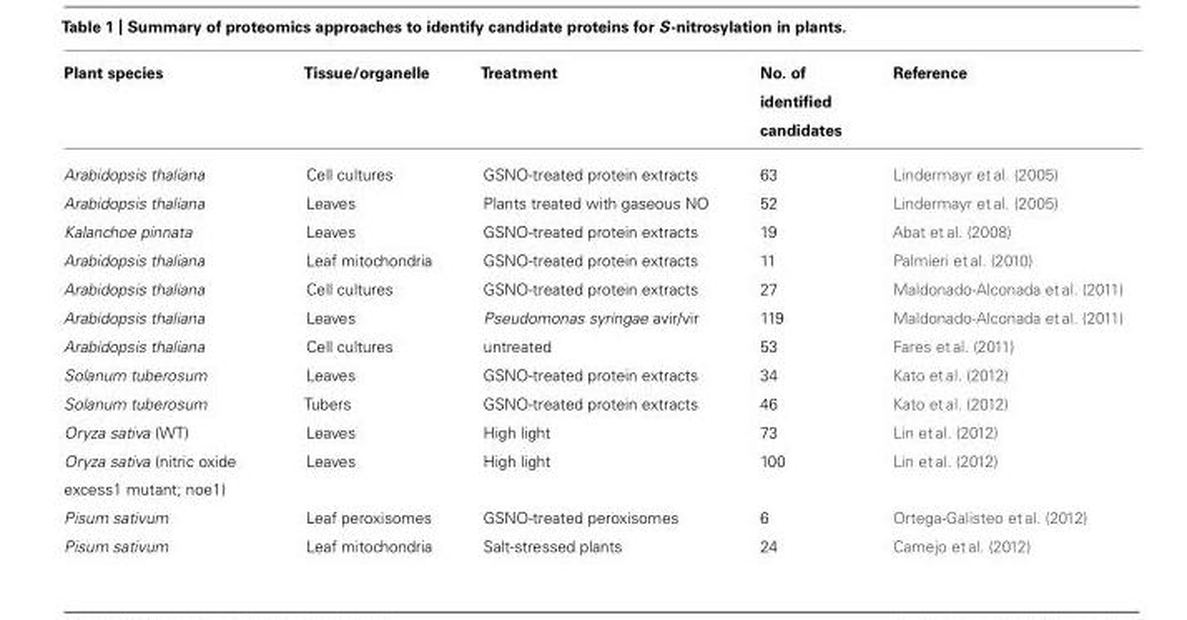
<table><thead><tr><td>Plant species</td><td>Tissue/organelle</td><td>Treatment</td><td>No. of identified candidates</td><td>Reference</td></tr></thead><tbody><tr><td>Arabidopsis thaliana</td><td>Cell cultures</td><td>GSNO-treated protein extracts</td><td>63</td><td>Lindermayr et al. (2005)</td></tr><tr><td>Arabidopsis thaliana</td><td>Leaves</td><td>Plants treated with gaseous NO</td><td>52</td><td>Lindermayr et al. (2005)</td></tr><tr><td>Kalanchoe pinnata</td><td>Leaves</td><td>GSNO-treated protein extracts</td><td>19</td><td>Abat et al. (2008)</td></tr><tr><td>Arabidopsis thaliana</td><td>Leaf mitochondria</td><td>GSNO-treated protein extracts</td><td>11</td><td>Palmieri et al. (2010)</td></tr><tr><td>Arabidopsis thaliana</td><td>Cell cultures</td><td>GSNO-treated protein extracts</td><td>27</td><td>Maldonado-Alconada et al. (2011)</td></tr><tr><td>Arabidopsis thaliana</td><td>Leaves</td><td>Pseudomonas syringae avir/vir</td><td>119</td><td>Maldonado-Alconada et al. (2011)</td></tr><tr><td>Arabidopsis thaliana</td><td>Cell cultures</td><td>untreated</td><td>53</td><td>Fares et al. (2011)</td></tr><tr><td>Solanum tuberosum</td><td>Leaves</td><td>GSNO-treated protein extracts</td><td>34</td><td>Kato et al. (2012)</td></tr><tr><td>Solanum tuberosum</td><td>Tubers</td><td>GSNO-treated protein extracts</td><td>46</td><td>Kato et al. (2012)</td></tr><tr><td>Oryza sativa (WT)</td><td>Leaves</td><td>High light</td><td>73</td><td>Lin et al. (2012)</td></tr><tr><td>Oryza sativa (nitric oxide excess1 mutant; noe1)</td><td>Leaves</td><td>High light</td><td>100</td><td>Lin et al. (2012)</td></tr><tr><td>Pisum sativum</td><td>Leaf peroxisomes</td><td>GSNO-treated peroxisomes</td><td>6</td><td>Ortega-Galisteo et al. (2012)</td></tr><tr><td>Pisum sativum</td><td>Leaf mitochondria</td><td>Salt-stressed plants</td><td>24</td><td>Camejo et al. (2012)</td></tr></tbody></table>